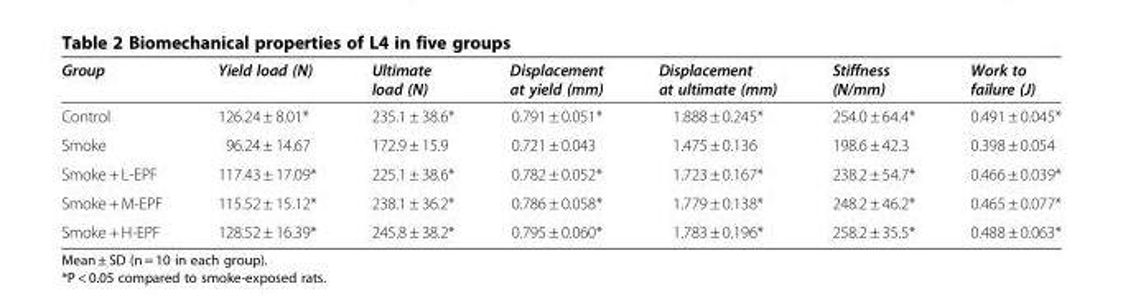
<table><thead><tr><td>Group</td><td>Yield load (N)</td><td>Ultimate load (N)</td><td>Displacement at yield (mm)</td><td>Displacement at ultimate (mm)</td><td>Stiffness (N/mm)</td><td>Work to failure (J)</td></tr></thead><tbody><tr><td>Control</td><td>126.24 ± 8.01*</td><td>235.1 ± 38.6*</td><td>0.791 ± 0.051*</td><td>1.888 ± 0.245*</td><td>254.0 ± 64.4*</td><td>0.491 ± 0.045*</td></tr><tr><td>Smoke</td><td>96.24 ± 14.67</td><td>172.9 ± 15.9</td><td>0.721 ± 0.043</td><td>1.475 ± 0.136</td><td>198.6 ± 42.3</td><td>0.398 ± 0.054</td></tr><tr><td>Smoke + L-EPF</td><td>117.43 ± 17.09*</td><td>225.1 ± 38.6*</td><td>0.782 ± 0.052*</td><td>1.723 ± 0.167*</td><td>238.2 ± 54.7*</td><td>0.466 ± 0.039*</td></tr><tr><td>Smoke + M-EPF</td><td>115.52 ± 15.12*</td><td>238.1 ± 36.2*</td><td>0.786 ± 0.058*</td><td>1.779 ± 0.138*</td><td>248.2 ± 46.2*</td><td>0.465 ± 0.077*</td></tr><tr><td>Smoke + H-EPF</td><td>128.52 ± 16.39*</td><td>245.8 ± 38.2*</td><td>0.795 ± 0.060*</td><td>1.783 ± 0.196*</td><td>258.2 ± 35.5*</td><td>0.488 ± 0.063*</td></tr></tbody></table>